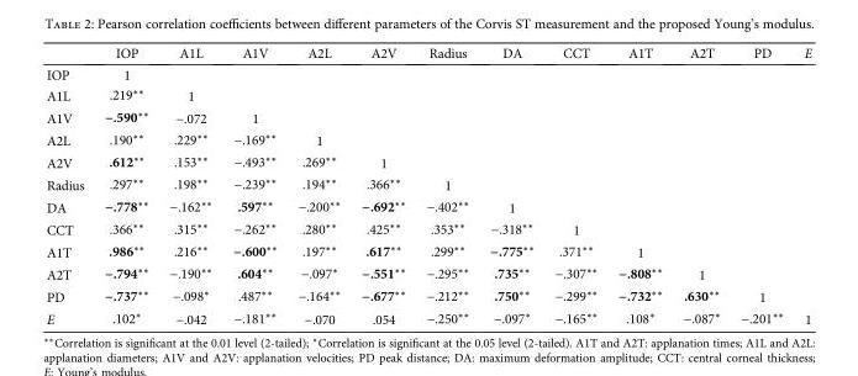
<table><thead><tr><td></td><td>IOP</td><td>A1L</td><td>A1V</td><td>A2L</td><td>A2V</td><td>Radius</td><td>DA</td><td>CCT</td><td>A1T</td><td>A2T</td><td>PD</td><td>E</td></tr></thead><tbody><tr><td>IOP</td><td>1</td><td></td><td></td><td></td><td></td><td></td><td></td><td></td><td></td><td></td><td></td><td></td></tr><tr><td>A1L</td><td>.219∗∗</td><td>1</td><td></td><td></td><td></td><td></td><td></td><td></td><td></td><td></td><td></td><td></td></tr><tr><td>A1V</td><td>−.590∗∗</td><td>−.072</td><td>1</td><td></td><td></td><td></td><td></td><td></td><td></td><td></td><td></td><td></td></tr><tr><td>A2L</td><td>.190∗∗</td><td>.229∗∗</td><td>−.169∗∗</td><td>1</td><td></td><td></td><td></td><td></td><td></td><td></td><td></td><td></td></tr><tr><td>A2V</td><td>.612∗∗</td><td>.153∗∗</td><td>−.493∗∗</td><td>.269∗∗</td><td>1</td><td></td><td></td><td></td><td></td><td></td><td></td><td></td></tr><tr><td>Radius</td><td>.297∗∗</td><td>.198∗∗</td><td>−.239∗∗</td><td>.194∗∗</td><td>.366∗∗</td><td>1</td><td></td><td></td><td></td><td></td><td></td><td></td></tr><tr><td>DA</td><td>−.778∗∗</td><td>−.162∗∗</td><td>.597∗∗</td><td>−.200∗∗</td><td>−.692∗∗</td><td>−.402∗∗</td><td>1</td><td></td><td></td><td></td><td></td><td></td></tr><tr><td>CCT</td><td>.366∗∗</td><td>.315∗∗</td><td>−.262∗∗</td><td>.280∗∗</td><td>.425∗∗</td><td>.353∗∗</td><td>−.318∗∗</td><td>1</td><td></td><td></td><td></td><td></td></tr><tr><td>A1T</td><td>.986∗∗</td><td>.216∗∗</td><td>−.600∗∗</td><td>.197∗∗</td><td>.617∗∗</td><td>.299∗∗</td><td>−.775∗∗</td><td>.371∗∗</td><td>1</td><td></td><td></td><td></td></tr><tr><td>A2T</td><td>−.794∗∗</td><td>−.190∗∗</td><td>.604∗∗</td><td>−.097∗</td><td>−.551∗∗</td><td>−.295∗∗</td><td>.735∗∗</td><td>−.307∗∗</td><td>−.808∗∗</td><td>1</td><td></td><td></td></tr><tr><td>PD</td><td>−.737∗∗</td><td>−.098∗</td><td>.487∗∗</td><td>−.164∗∗</td><td>−.677∗∗</td><td>−.212∗∗</td><td>.750∗∗</td><td>−.299∗∗</td><td>−.732∗∗</td><td>.630∗∗</td><td>1</td><td></td></tr><tr><td>E</td><td>.102∗</td><td>−.042</td><td>−.181∗∗</td><td>−.070</td><td>.054</td><td>−.250∗∗</td><td>−.097∗</td><td>−.165∗∗</td><td>.108∗</td><td>−.087∗</td><td>−.201∗∗</td><td>1</td></tr></tbody></table>